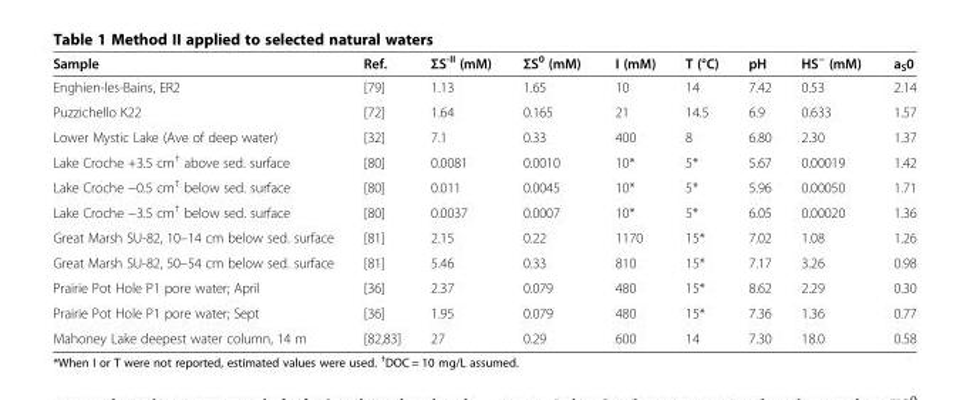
<table><thead><tr><td>Sample</td><td>Ref.</td><td>ΣS<sup>-II</sup> (mM)</td><td>ΣS<sup>0</sup> (mM)</td><td>I (mM)</td><td>T (°C)</td><td>pH</td><td>HS<sup>−</sup> (mM)</td><td>a<sub>S</sub>0</td></tr></thead><tbody><tr><td>Enghien-les-Bains, ER2</td><td>[79]</td><td>1.13</td><td>1.65</td><td>10</td><td>14</td><td>7.42</td><td>0.53</td><td>2.14</td></tr><tr><td>Puzzichello K22</td><td>[72]</td><td>1.64</td><td>0.165</td><td>21</td><td>14.5</td><td>6.9</td><td>0.633</td><td>1.57</td></tr><tr><td>Lower Mystic Lake (Ave of deep water)</td><td>[32]</td><td>7.1</td><td>0.33</td><td>400</td><td>8</td><td>6.80</td><td>2.30</td><td>1.37</td></tr><tr><td>Lake Croche +3.5 cm<sup>†</sup> above sed. surface</td><td>[80]</td><td>0.0081</td><td>0.0010</td><td>10*</td><td>5*</td><td>5.67</td><td>0.00019</td><td>1.42</td></tr><tr><td>Lake Croche −0.5 cm<sup>†</sup> below sed. surface</td><td>[80]</td><td>0.011</td><td>0.0045</td><td>10*</td><td>5*</td><td>5.96</td><td>0.00050</td><td>1.71</td></tr><tr><td>Lake Croche −3.5 cm<sup>†</sup> below sed. surface</td><td>[80]</td><td>0.0037</td><td>0.0007</td><td>10*</td><td>5*</td><td>6.05</td><td>0.00020</td><td>1.36</td></tr><tr><td>Great Marsh SU-82, 10–14 cm below sed. surface</td><td>[81]</td><td>2.15</td><td>0.22</td><td>1170</td><td>15*</td><td>7.02</td><td>1.08</td><td>1.26</td></tr><tr><td>Great Marsh SU-82, 50–54 cm below sed. surface</td><td>[81]</td><td>5.46</td><td>0.33</td><td>810</td><td>15*</td><td>7.17</td><td>3.26</td><td>0.98</td></tr><tr><td>Prairie Pot Hole P1 pore water; April</td><td>[36]</td><td>2.37</td><td>0.079</td><td>480</td><td>15*</td><td>8.62</td><td>2.29</td><td>0.30</td></tr><tr><td>Prairie Pot Hole P1 pore water; Sept</td><td>[36]</td><td>1.95</td><td>0.079</td><td>480</td><td>15*</td><td>7.36</td><td>1.36</td><td>0.77</td></tr><tr><td>Mahoney Lake deepest water column, 14 m</td><td>[82,83]</td><td>27</td><td>0.29</td><td>600</td><td>14</td><td>7.30</td><td>18.0</td><td>0.58</td></tr></tbody></table>